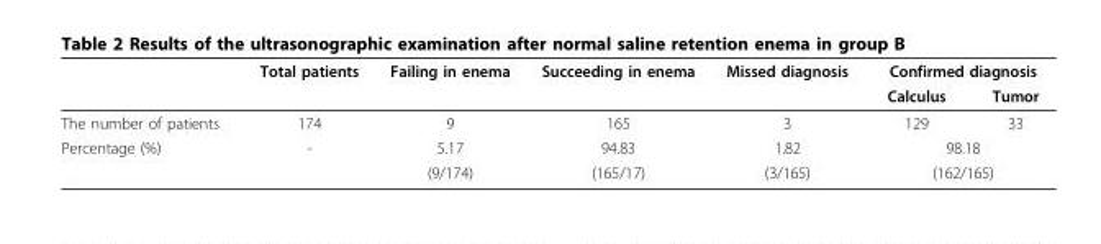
<table><thead><tr><td rowspan="2"></td><td rowspan="2">Total patients</td><td rowspan="2">Failing in enema</td><td rowspan="2">Succeeding in enema</td><td rowspan="2">Missed diagnosis</td><td colspan="2">Confirmed diagnosis</td></tr><tr><td>Calculus</td><td>Tumor</td></tr></thead><tbody><tr><td>The number of patients</td><td>174</td><td>9</td><td>165</td><td>3</td><td>129</td><td>33</td></tr><tr><td rowspan="2">Percentage (%)</td><td>-</td><td>5.17</td><td>94.83</td><td>1.82</td><td colspan="2">98.18</td></tr><tr><td></td><td>(9/174)</td><td>(165/17)</td><td>(3/165)</td><td colspan="2">(162/165)</td></tr></tbody></table>